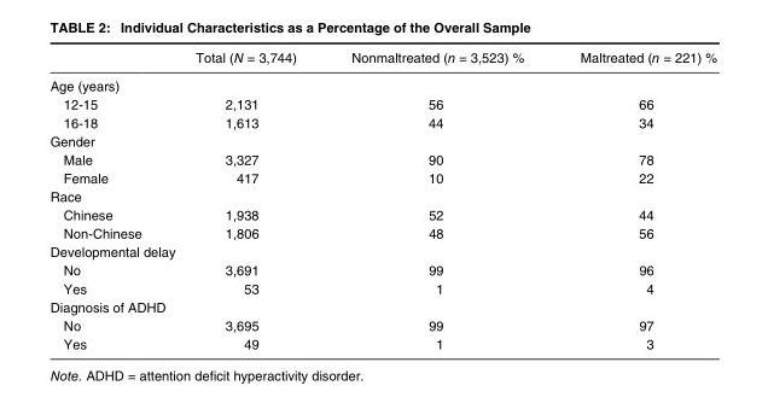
<table><thead><tr><td></td><td>Total (N = 3,744)</td><td>Nonmaltreated (n = 3,523) %</td><td>Maltreated (n = 221) %</td></tr></thead><tbody><tr><td colspan="4">Age (years)</td></tr><tr><td>12-15</td><td>2,131</td><td>56</td><td>66</td></tr><tr><td>16-18</td><td>1,613</td><td>44</td><td>34</td></tr><tr><td colspan="4">Gender</td></tr><tr><td>Male</td><td>3,327</td><td>90</td><td>78</td></tr><tr><td>Female</td><td>417</td><td>10</td><td>22</td></tr><tr><td colspan="4">Race</td></tr><tr><td>Chinese</td><td>1,938</td><td>52</td><td>44</td></tr><tr><td>Non-Chinese</td><td>1,806</td><td>48</td><td>56</td></tr><tr><td colspan="4">Developmental delay</td></tr><tr><td>No</td><td>3,691</td><td>99</td><td>96</td></tr><tr><td>Yes</td><td>53</td><td>1</td><td>4</td></tr><tr><td colspan="4">Diagnosis of ADHD</td></tr><tr><td>No</td><td>3,695</td><td>99</td><td>97</td></tr><tr><td>Yes</td><td>49</td><td>1</td><td>3</td></tr></tbody></table>